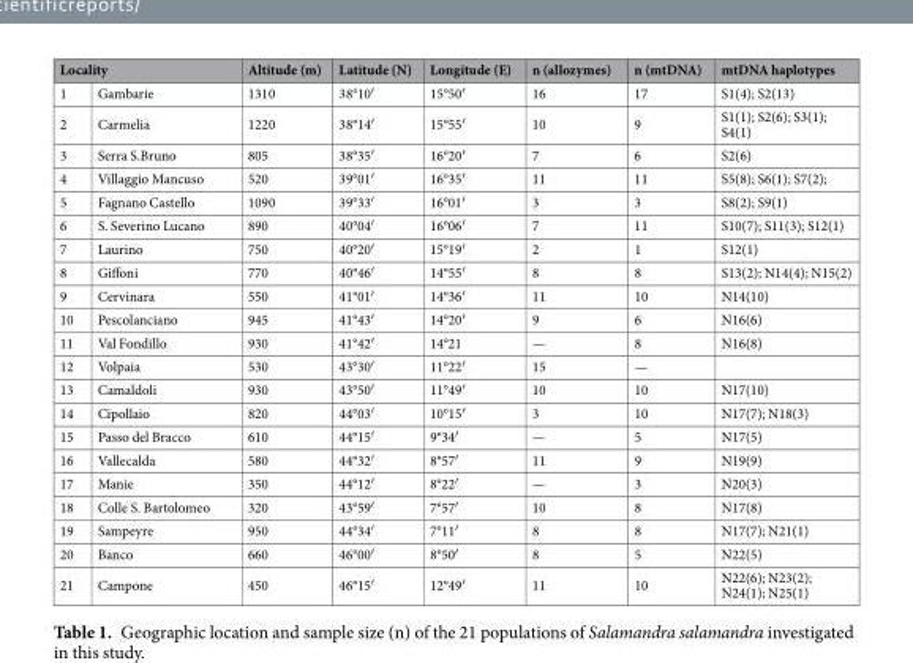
<table><thead><tr><td colspan="2">Locality</td><td rowspan="2">Altitude (m) 1310</td><td rowspan="2">Latitude (N) 38°10′</td><td rowspan="2">Longitude (E) 15°50′</td><td rowspan="2">n (allozymes) 16</td><td rowspan="2">n (mtDNA) 17</td><td rowspan="2">mtDNA haplotypes S1(4); S2(13)</td></tr><tr><td>1</td><td>Gambarie</td></tr></thead><tbody><tr><td>2</td><td>Carmelia</td><td>1220</td><td>38°14′</td><td>15°55′</td><td>10</td><td>9</td><td>S1(1); S2(6); S3(1); S4(1)</td></tr><tr><td>3</td><td>Serra S.Bruno</td><td>805</td><td>38°35′</td><td>16°20′</td><td>7</td><td>6</td><td>S2(6)</td></tr><tr><td>4</td><td>Villaggio Mancuso</td><td>520</td><td>39°01′</td><td>16°35′</td><td>11</td><td>11</td><td>S5(8); S6(1); S7(2);</td></tr><tr><td>5</td><td>Fagnano Castello</td><td>1090</td><td>39°33′</td><td>16°01′</td><td>3</td><td>3</td><td>S8(2); S9(1)</td></tr><tr><td>6</td><td>S. Severino Lucano</td><td>890</td><td>40°04′</td><td>16°06′</td><td>7</td><td>11</td><td>S10(7); S11(3); S12(1)</td></tr><tr><td>7</td><td>Laurino</td><td>750</td><td>40°20′</td><td>15°19′</td><td>2</td><td>1</td><td>S12(1)</td></tr><tr><td>8</td><td>Giffoni</td><td>770</td><td>40°46′</td><td>14°55′</td><td>8</td><td>8</td><td>S13(2); N14(4); N15(2)</td></tr><tr><td>9</td><td>Cervinara</td><td>550</td><td>41°01′</td><td>14°36′</td><td>11</td><td>10</td><td>N14(10)</td></tr><tr><td>10</td><td>Pescolanciano</td><td>945</td><td>41°43′</td><td>14°20′</td><td>9</td><td>6</td><td>N16(6)</td></tr><tr><td>11</td><td>Val Fondillo</td><td>930</td><td>41°42′</td><td>14°21</td><td>—</td><td>8</td><td>N16(8)</td></tr><tr><td>12</td><td>Volpaia</td><td>530</td><td>43°30′</td><td>11°22′</td><td>15</td><td>—</td><td></td></tr><tr><td>13</td><td>Camaldoli</td><td>930</td><td>43°50′</td><td>11°49′</td><td>10</td><td>10</td><td>N17(10)</td></tr><tr><td>14</td><td>Cipollaio</td><td>820</td><td>44°03′</td><td>10°15′</td><td>3</td><td>10</td><td>N17(7); N18(3)</td></tr><tr><td>15</td><td>Passo del Bracco</td><td>610</td><td>44°15′</td><td>9°34′</td><td>—</td><td>5</td><td>N17(5)</td></tr><tr><td>16</td><td>Vallecalda</td><td>580</td><td>44°32′</td><td>8°57′</td><td>11</td><td>9</td><td>N19(9)</td></tr><tr><td>17</td><td>Manie</td><td>350</td><td>44°12′</td><td>8°22′</td><td>—</td><td>3</td><td>N20(3)</td></tr><tr><td>18</td><td>Colle S. Bartolomeo</td><td>320</td><td>43°59′</td><td>7°57′</td><td>10</td><td>8</td><td>N17(8)</td></tr><tr><td>19</td><td>Sampeyre</td><td>950</td><td>44°34′</td><td>7°11′</td><td>8</td><td>8</td><td>N17(7); N21(1)</td></tr><tr><td>20</td><td>Banco</td><td>660</td><td>46°00′</td><td>8°50′</td><td>8</td><td>5</td><td>N22(5)</td></tr><tr><td>21</td><td>Campone</td><td>450</td><td>46°15′</td><td>12°49′</td><td>11</td><td>10</td><td>N22(6); N23(2); N24(1); N25(1)</td></tr></tbody></table>